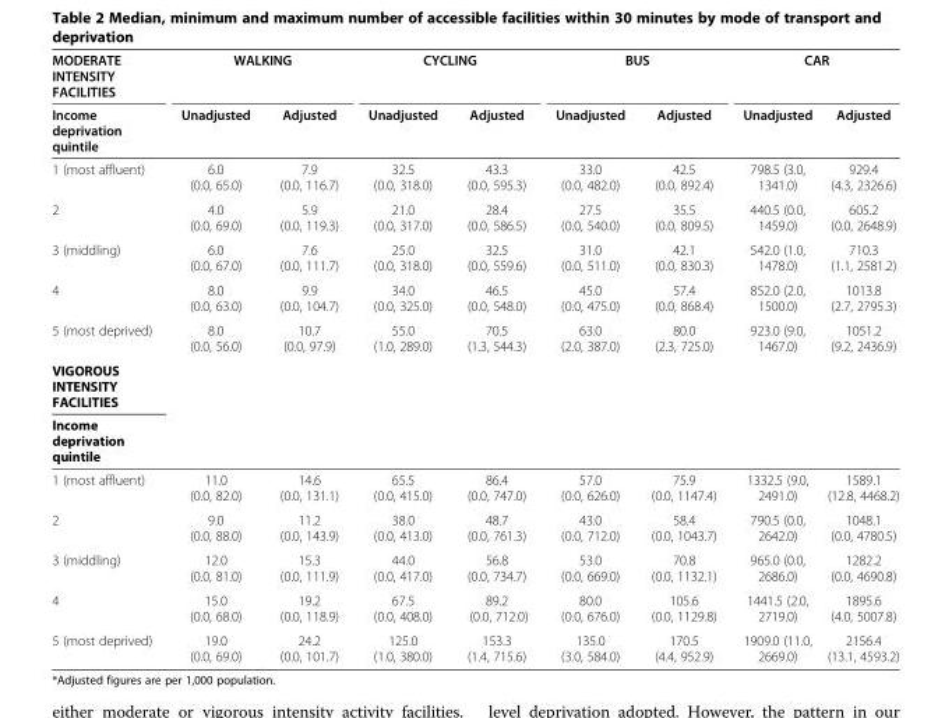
<table><thead><tr><td rowspan="2">MODERATE INTENSITY FACILITIES Income deprivation quintile</td><td colspan="2">WALKING</td><td colspan="2">CYCLING</td><td colspan="2">BUS</td><td colspan="2">CAR</td></tr><tr><td>Unadjusted</td><td>Adjusted</td><td>Unadjusted</td><td>Adjusted</td><td>Unadjusted</td><td>Adjusted</td><td>Unadjusted</td><td>Adjusted</td></tr></thead><tbody><tr><td>1 (most affluent)</td><td>6.0 (0.0, 65.0)</td><td>7.9 (0.0, 116.7)</td><td>32.5 (0.0, 318.0)</td><td>43.3 (0.0, 595.3)</td><td>33.0 (0.0, 482.0)</td><td>42.5 (0.0, 892.4)</td><td>798.5 (3.0, 1341.0)</td><td>929.4 (4.3, 2326.6)</td></tr><tr><td>2</td><td>4.0 (0.0, 69.0)</td><td>5.9 (0.0, 119.3)</td><td>21.0 (0.0, 317.0)</td><td>28.4 (0.0, 586.5)</td><td>27.5 (0.0, 540.0)</td><td>35.5 (0.0, 809.5)</td><td>440.5 (0.0, 1459.0)</td><td>605.2 (0.0, 2648.9)</td></tr><tr><td>3 (middling)</td><td>6.0 (0.0, 67.0)</td><td>7.6 (0.0, 111.7)</td><td>25.0 (0.0, 318.0)</td><td>32.5 (0.0, 559.6)</td><td>31.0 (0.0, 511.0)</td><td>42.1 (0.0, 830.3)</td><td>542.0 (1.0, 1478.0)</td><td>710.3 (1.1, 2581.2)</td></tr><tr><td>4</td><td>8.0 (0.0, 63.0)</td><td>9.9 (0.0, 104.7)</td><td>34.0 (0.0, 325.0)</td><td>46.5 (0.0, 548.0)</td><td>45.0 (0.0, 475.0)</td><td>57.4 (0.0, 868.4)</td><td>852.0 (2.0, 1500.0)</td><td>1013.8 (2.7, 2795.3)</td></tr><tr><td>5 (most deprived)</td><td>8.0 (0.0, 56.0)</td><td>10.7 (0.0, 97.9)</td><td>55.0 (1.0, 289.0)</td><td>70.5 (1.3, 544.3)</td><td>63.0 (2.0, 387.0)</td><td>80.0 (2.3, 725.0)</td><td>923.0 (9.0, 1467.0)</td><td>1051.2 (9.2, 2436.9)</td></tr><tr><td colspan="9">VIGOROUS INTENSITY FACILITIES</td></tr><tr><td colspan="9">Income deprivation quintile</td></tr><tr><td>1 (most affluent)</td><td>11.0 (0.0, 82.0)</td><td>14.6 (0.0, 131.1)</td><td>65.5 (0.0, 415.0)</td><td>86.4 (0.0, 747.0)</td><td>57.0 (0.0, 626.0)</td><td>75.9 (0.0, 1147.4)</td><td>1332.5 (9.0, 2491.0)</td><td>1589.1 (12.8, 4468.2)</td></tr><tr><td>2</td><td>9.0 (0.0, 88.0)</td><td>11.2 (0.0, 143.9)</td><td>38.0 (0.0, 413.0)</td><td>48.7 (0.0, 761.3)</td><td>43.0 (0.0, 712.0)</td><td>58.4 (0.0, 1043.7)</td><td>790.5 (0.0, 2642.0)</td><td>1048.1 (0.0, 4780.5)</td></tr><tr><td>3 (middling)</td><td>12.0 (0.0, 81.0)</td><td>15.3 (0.0, 111.9)</td><td>44.0 (0.0, 417.0)</td><td>56.8 (0.0, 734.7)</td><td>53.0 (0.0, 669.0)</td><td>70.8 (0.0, 1132.1)</td><td>965.0 (0.0, 2686.0)</td><td>1282.2 (0.0, 4690.8)</td></tr><tr><td>4</td><td>15.0 (0.0, 68.0)</td><td>19.2 (0.0, 118.9)</td><td>67.5 (0.0, 408.0)</td><td>89.2 (0.0, 712.0)</td><td>80.0 (0.0, 676.0)</td><td>105.6 (0.0, 1129.8)</td><td>1441.5 (2.0, 2719.0)</td><td>1895.6 (4.0, 5007.8)</td></tr><tr><td>5 (most deprived)</td><td>19.0 (0.0, 69.0)</td><td>24.2 (0.0, 101.7)</td><td>125.0 (1.0, 380.0)</td><td>153.3 (1.4, 715.6)</td><td>135.0 (3.0, 584.0)</td><td>170.5 (4.4, 952.9)</td><td>1909.0 (11.0, 2669.0)</td><td>2156.4 (13.1, 4593.2)</td></tr></tbody></table>